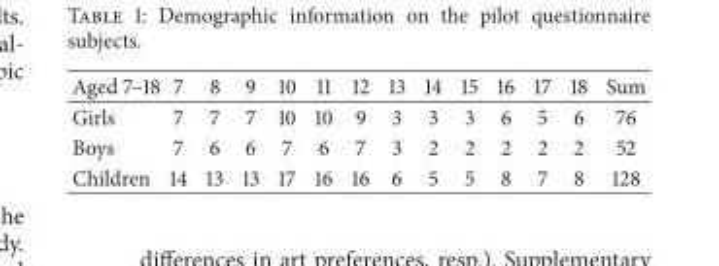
<table><thead><tr><td>Aged 7–18</td><td>7</td><td>8</td><td>9</td><td>10</td><td>11</td><td>12</td><td>13</td><td>14</td><td>15</td><td>16</td><td>17</td><td>18</td><td>Sum</td></tr></thead><tbody><tr><td>Girls</td><td>7</td><td>7</td><td>7</td><td>10</td><td>10</td><td>9</td><td>3</td><td>3</td><td>3</td><td>6</td><td>5</td><td>6</td><td>76</td></tr><tr><td>Boys</td><td>7</td><td>6</td><td>6</td><td>7</td><td>6</td><td>7</td><td>3</td><td>2</td><td>2</td><td>2</td><td>2</td><td>2</td><td>52</td></tr><tr><td>Children</td><td>14</td><td>13</td><td>13</td><td>17</td><td>16</td><td>16</td><td>6</td><td>5</td><td>5</td><td>8</td><td>7</td><td>8</td><td>128</td></tr></tbody></table>